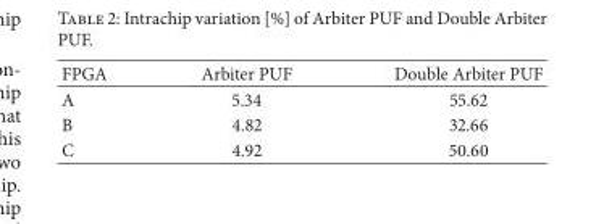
<table><thead><tr><td>FPGA</td><td>Arbiter PUF</td><td>Double Arbiter PUF</td></tr></thead><tbody><tr><td>A</td><td>5.34</td><td>55.62</td></tr><tr><td>B</td><td>4.82</td><td>32.66</td></tr><tr><td>C</td><td>4.92</td><td>50.60</td></tr></tbody></table>